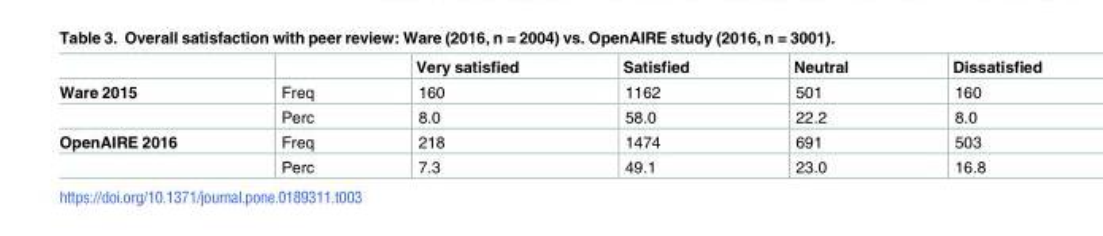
<table><thead><tr><td></td><td></td><td>Very satisfied</td><td>Satisfied</td><td>Neutral</td><td>Dissatisfied</td></tr></thead><tbody><tr><td rowspan="2">Ware 2015</td><td>Freq</td><td>160</td><td>1162</td><td>501</td><td>160</td></tr><tr><td>Perc</td><td>8.0</td><td>58.0</td><td>22.2</td><td>8.0</td></tr><tr><td rowspan="2">OpenAIRE 2016</td><td>Freq</td><td>218</td><td>1474</td><td>691</td><td>503</td></tr><tr><td>Perc</td><td>7.3</td><td>49.1</td><td>23.0</td><td>16.8</td></tr></tbody></table>